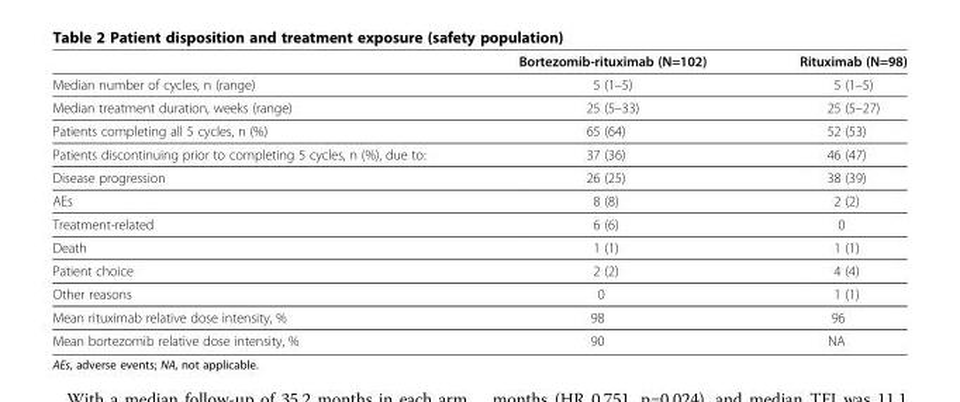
<table><thead><tr><td></td><td>Bortezomib-rituximab (N=102)</td><td>Rituximab (N=98)</td></tr></thead><tbody><tr><td>Median number of cycles, n (range)</td><td>5 (1–5)</td><td>5 (1–5)</td></tr><tr><td>Median treatment duration, weeks (range)</td><td>25 (5–33)</td><td>25 (5–27)</td></tr><tr><td>Patients completing all 5 cycles, n (%)</td><td>65 (64)</td><td>52 (53)</td></tr><tr><td>Patients discontinuing prior to completing 5 cycles, n (%), due to:</td><td>37 (36)</td><td>46 (47)</td></tr><tr><td>Disease progression</td><td>26 (25)</td><td>38 (39)</td></tr><tr><td>AEs</td><td>8 (8)</td><td>2 (2)</td></tr><tr><td>Treatment-related</td><td>6 (6)</td><td>0</td></tr><tr><td>Death</td><td>1 (1)</td><td>1 (1)</td></tr><tr><td>Patient choice</td><td>2 (2)</td><td>4 (4)</td></tr><tr><td>Other reasons</td><td>0</td><td>1 (1)</td></tr><tr><td>Mean rituximab relative dose intensity, %</td><td>98</td><td>96</td></tr><tr><td>Mean bortezomib relative dose intensity, %</td><td>90</td><td>NA</td></tr></tbody></table>